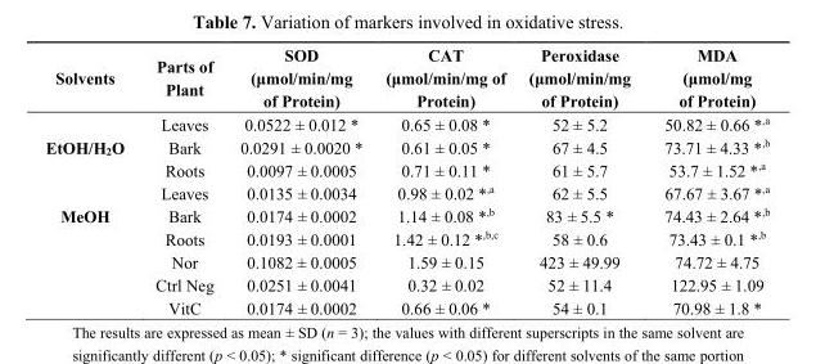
<table><thead><tr><td>Solvents</td><td>Parts of Plant</td><td>SOD (μmol/min/mg of Protein)</td><td>CAT (μmol/min/mg of Protein)</td><td>Peroxidase (μmol/min/mg of Protein)</td><td>MDA (μmol/mg of Protein)</td></tr></thead><tbody><tr><td rowspan="3">EtOH/H<sub>2</sub>O</td><td>Leaves</td><td>0.0522 ± 0.012 *</td><td>0.65 ± 0.08 *</td><td>52 ± 5.2</td><td>50.82 ± 0.66 *<sup>,a</sup></td></tr><tr><td>Bark</td><td>0.0291 ± 0.0020 *</td><td>0.61 ± 0.05 *</td><td>67 ± 4.5</td><td>73.71 ± 4.33 *<sup>,b</sup></td></tr><tr><td>Roots</td><td>0.0097 ± 0.0005</td><td>0.71 ± 0.11 *</td><td>61 ± 5.7</td><td>53.7 ± 1.52 *<sup>,a</sup></td></tr><tr><td rowspan="6">MeOH</td><td>Leaves</td><td>0.0135 ± 0.0034</td><td>0.98 ± 0.02 *<sup>,a</sup></td><td>62 ± 5.5</td><td>67.67 ± 3.67 *<sup>,a</sup></td></tr><tr><td>Bark</td><td>0.0174 ± 0.0002</td><td>1.14 ± 0.08 *<sup>,b</sup></td><td>83 ± 5.5 *</td><td>74.43 ± 2.64 *<sup>,b</sup></td></tr><tr><td>Roots</td><td>0.0193 ± 0.0001</td><td>1.42 ± 0.12 *<sup>,b,c</sup></td><td>58 ± 0.6</td><td>73.43 ± 0.1 *<sup>,b</sup></td></tr><tr><td>Nor</td><td>0.1082 ± 0.0005</td><td>1.59 ± 0.15</td><td>423 ± 49.99</td><td>74.72 ± 4.75</td></tr><tr><td>Ctrl Neg</td><td>0.0251 ± 0.0041</td><td>0.32 ± 0.02</td><td>52 ± 11.4</td><td>122.95 ± 1.09</td></tr><tr><td>VitC</td><td>0.0174 ± 0.0002</td><td>0.66 ± 0.06 *</td><td>54 ± 0.1</td><td>70.98 ± 1.8 *</td></tr></tbody></table>